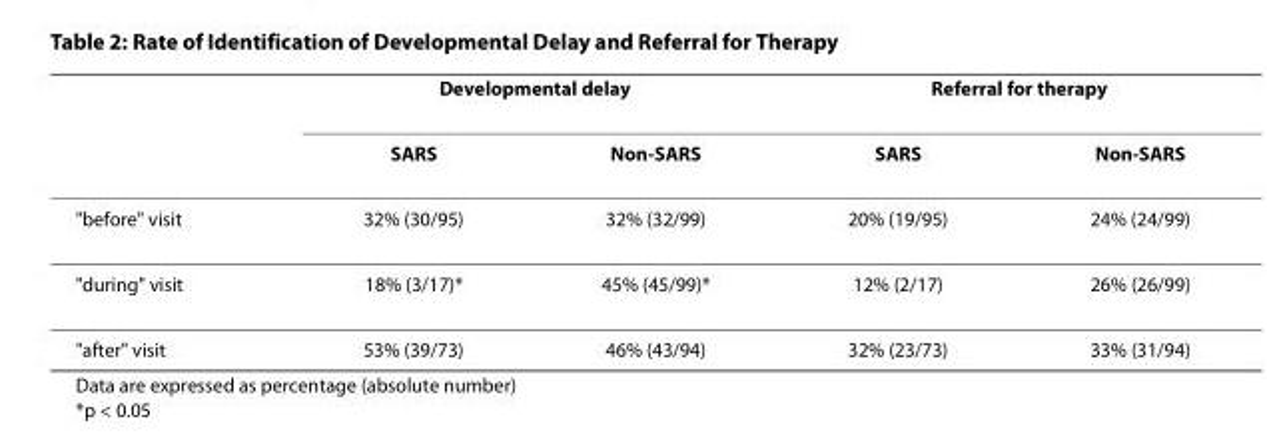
<table><thead><tr><td rowspan="2"></td><td colspan="2">Developmental delay</td><td colspan="2">Referral for therapy</td></tr><tr><td>SARS</td><td>Non-SARS</td><td>SARS</td><td>Non-SARS</td></tr></thead><tbody><tr><td>&quot;before&quot; visit</td><td>32% (30/95)</td><td>32% (32/99)</td><td>20% (19/95)</td><td>24% (24/99)</td></tr><tr><td>&quot;during&quot; visit</td><td>18% (3/17)*</td><td>45% (45/99)*</td><td>12% (2/17)</td><td>26% (26/99)</td></tr><tr><td>&quot;after&quot; visit</td><td>53% (39/73)</td><td>46% (43/94)</td><td>32% (23/73)</td><td>33% (31/94)</td></tr></tbody></table>